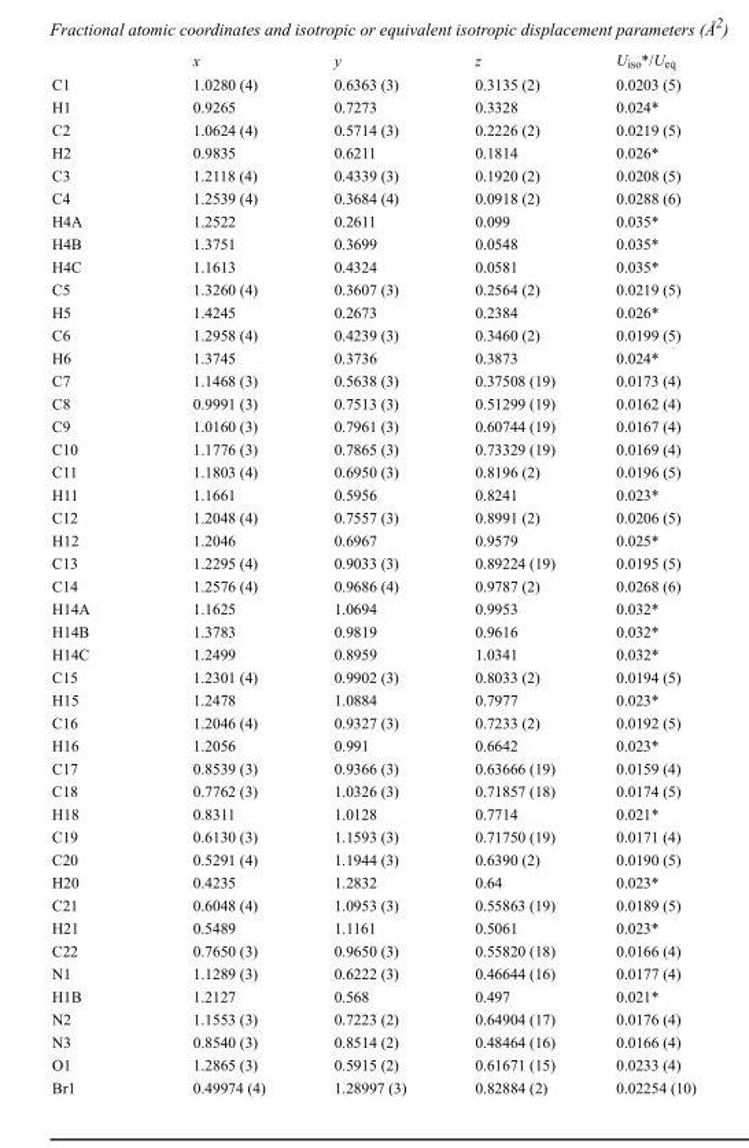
<table><thead><tr><td></td><td>x</td><td>y</td><td>z</td><td>U<sub>iso</sub>*/U<sub>eq</sub></td></tr></thead><tbody><tr><td>C1</td><td>1.0280 (4)</td><td>0.6363 (3)</td><td>0.3135 (2)</td><td>0.0203 (5)</td></tr><tr><td>H1</td><td>0.9265</td><td>0.7273</td><td>0.3328</td><td>0.024*</td></tr><tr><td>C2</td><td>1.0624 (4)</td><td>0.5714 (3)</td><td>0.2226 (2)</td><td>0.0219 (5)</td></tr><tr><td>H2</td><td>0.9835</td><td>0.6211</td><td>0.1814</td><td>0.026*</td></tr><tr><td>C3</td><td>1.2118 (4)</td><td>0.4339 (3)</td><td>0.1920 (2)</td><td>0.0208 (5)</td></tr><tr><td>C4</td><td>1.2539 (4)</td><td>0.3684 (4)</td><td>0.0918 (2)</td><td>0.0288 (6)</td></tr><tr><td>H4A</td><td>1.2522</td><td>0.2611</td><td>0.099</td><td>0.035*</td></tr><tr><td>H4B</td><td>1.3751</td><td>0.3699</td><td>0.0548</td><td>0.035*</td></tr><tr><td>H4C</td><td>1.1613</td><td>0.4324</td><td>0.0581</td><td>0.035*</td></tr><tr><td>C5</td><td>1.3260 (4)</td><td>0.3607 (3)</td><td>0.2564 (2)</td><td>0.0219 (5)</td></tr><tr><td>H5</td><td>1.4245</td><td>0.2673</td><td>0.2384</td><td>0.026*</td></tr><tr><td>C6</td><td>1.2958 (4)</td><td>0.4239 (3)</td><td>0.3460 (2)</td><td>0.0199 (5)</td></tr><tr><td>H6</td><td>1.3745</td><td>0.3736</td><td>0.3873</td><td>0.024*</td></tr><tr><td>C7</td><td>1.1468 (3)</td><td>0.5638 (3)</td><td>0.37508 (19)</td><td>0.0173 (4)</td></tr><tr><td>C8</td><td>0.9991 (3)</td><td>0.7513 (3)</td><td>0.51299 (19)</td><td>0.0162 (4)</td></tr><tr><td>C9</td><td>1.0160 (3)</td><td>0.7961 (3)</td><td>0.60744 (19)</td><td>0.0167 (4)</td></tr><tr><td>C10</td><td>1.1776 (3)</td><td>0.7865 (3)</td><td>0.73329 (19)</td><td>0.0169 (4)</td></tr><tr><td>C11</td><td>1.1803 (4)</td><td>0.6950 (3)</td><td>0.8196 (2)</td><td>0.0196 (5)</td></tr><tr><td>H11</td><td>1.1661</td><td>0.5956</td><td>0.8241</td><td>0.023*</td></tr><tr><td>C12</td><td>1.2048 (4)</td><td>0.7557 (3)</td><td>0.8991 (2)</td><td>0.0206 (5)</td></tr><tr><td>H12</td><td>1.2046</td><td>0.6967</td><td>0.9579</td><td>0.025*</td></tr><tr><td>C13</td><td>1.2295 (4)</td><td>0.9033 (3)</td><td>0.89224 (19)</td><td>0.0195 (5)</td></tr><tr><td>C14</td><td>1.2576 (4)</td><td>0.9686 (4)</td><td>0.9787 (2)</td><td>0.0268 (6)</td></tr><tr><td>H14A</td><td>1.1625</td><td>1.0694</td><td>0.9953</td><td>0.032*</td></tr><tr><td>H14B</td><td>1.3783</td><td>0.9819</td><td>0.9616</td><td>0.032*</td></tr><tr><td>H14C</td><td>1.2499</td><td>0.8959</td><td>1.0341</td><td>0.032*</td></tr><tr><td>C15</td><td>1.2301 (4)</td><td>0.9902 (3)</td><td>0.8033 (2)</td><td>0.0194 (5)</td></tr><tr><td>H15</td><td>1.2478</td><td>1.0884</td><td>0.7977</td><td>0.023*</td></tr><tr><td>C16</td><td>1.2046 (4)</td><td>0.9327 (3)</td><td>0.7233 (2)</td><td>0.0192 (5)</td></tr><tr><td>H16</td><td>1.2056</td><td>0.991</td><td>0.6642</td><td>0.023*</td></tr><tr><td>C17</td><td>0.8539 (3)</td><td>0.9366 (3)</td><td>0.63666 (19)</td><td>0.0159 (4)</td></tr><tr><td>C18</td><td>0.7762 (3)</td><td>1.0326 (3)</td><td>0.71857 (18)</td><td>0.0174 (5)</td></tr><tr><td>H18</td><td>0.8311</td><td>1.0128</td><td>0.7714</td><td>0.021*</td></tr><tr><td>C19</td><td>0.6130 (3)</td><td>1.1593 (3)</td><td>0.71750 (19)</td><td>0.0171 (4)</td></tr><tr><td>C20</td><td>0.5291 (4)</td><td>1.1944 (3)</td><td>0.6390 (2)</td><td>0.0190 (5)</td></tr><tr><td>H20</td><td>0.4235</td><td>1.2832</td><td>0.64</td><td>0.023*</td></tr><tr><td>C21</td><td>0.6048 (4)</td><td>1.0953 (3)</td><td>0.55863 (19)</td><td>0.0189 (5)</td></tr><tr><td>H21</td><td>0.5489</td><td>1.1161</td><td>0.5061</td><td>0.023*</td></tr><tr><td>C22</td><td>0.7650 (3)</td><td>0.9650 (3)</td><td>0.55820 (18)</td><td>0.0166 (4)</td></tr><tr><td>N1</td><td>1.1289 (3)</td><td>0.6222 (3)</td><td>0.46644 (16)</td><td>0.0177 (4)</td></tr><tr><td>H1B</td><td>1.2127</td><td>0.568</td><td>0.497</td><td>0.021*</td></tr><tr><td>N2</td><td>1.1553 (3)</td><td>0.7223 (2)</td><td>0.64904 (17)</td><td>0.0176 (4)</td></tr><tr><td>N3</td><td>0.8540 (3)</td><td>0.8514 (2)</td><td>0.48464 (16)</td><td>0.0166 (4)</td></tr><tr><td>O1</td><td>1.2865 (3)</td><td>0.5915 (2)</td><td>0.61671 (15)</td><td>0.0233 (4)</td></tr><tr><td>Br1</td><td>0.49974 (4)</td><td>1.28997 (3)</td><td>0.82884 (2)</td><td>0.02254 (10)</td></tr></tbody></table>